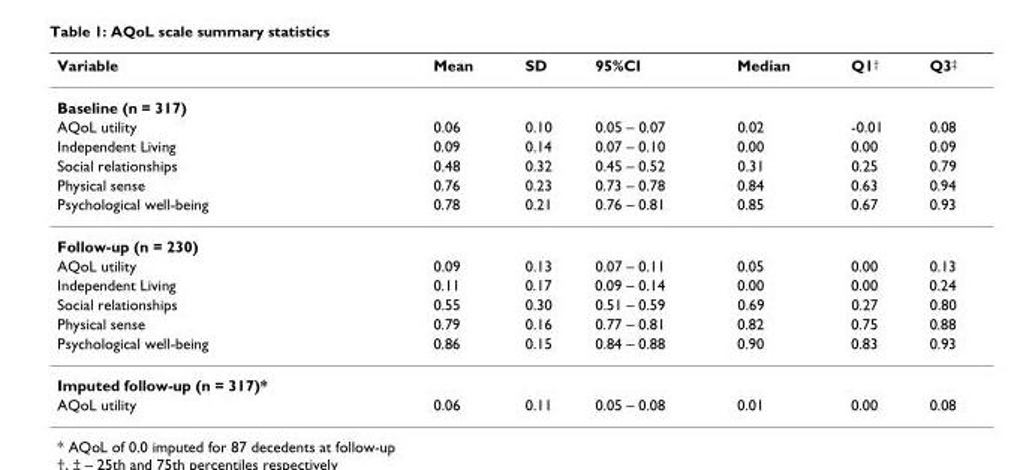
<table><thead><tr><td>Variable</td><td>Mean</td><td>SD</td><td>95%CI</td><td>Median</td><td>Q1<sup>†</sup></td><td>Q3<sup>‡</sup></td></tr></thead><tbody><tr><td colspan="7">Baseline (n = 317)</td></tr><tr><td>AQoL utility</td><td>0.06</td><td>0.10</td><td>0.05 – 0.07</td><td>0.02</td><td>-0.01</td><td>0.08</td></tr><tr><td>Independent Living</td><td>0.09</td><td>0.14</td><td>0.07 – 0.10</td><td>0.00</td><td>0.00</td><td>0.09</td></tr><tr><td>Social relationships</td><td>0.48</td><td>0.32</td><td>0.45 – 0.52</td><td>0.31</td><td>0.25</td><td>0.79</td></tr><tr><td>Physical sense</td><td>0.76</td><td>0.23</td><td>0.73 – 0.78</td><td>0.84</td><td>0.63</td><td>0.94</td></tr><tr><td>Psychological well-being</td><td>0.78</td><td>0.21</td><td>0.76 – 0.81</td><td>0.85</td><td>0.67</td><td>0.93</td></tr><tr><td colspan="7">Follow-up (n = 230)</td></tr><tr><td>AQoL utility</td><td>0.09</td><td>0.13</td><td>0.07 – 0.11</td><td>0.05</td><td>0.00</td><td>0.13</td></tr><tr><td>Independent Living</td><td>0.11</td><td>0.17</td><td>0.09 – 0.14</td><td>0.00</td><td>0.00</td><td>0.24</td></tr><tr><td>Social relationships</td><td>0.55</td><td>0.30</td><td>0.51 – 0.59</td><td>0.69</td><td>0.27</td><td>0.80</td></tr><tr><td>Physical sense</td><td>0.79</td><td>0.16</td><td>0.77 – 0.81</td><td>0.82</td><td>0.75</td><td>0.88</td></tr><tr><td>Psychological well-being</td><td>0.86</td><td>0.15</td><td>0.84 – 0.88</td><td>0.90</td><td>0.83</td><td>0.93</td></tr><tr><td colspan="7">Imputed follow-up (n = 317)*</td></tr><tr><td>AQoL utility</td><td>0.06</td><td>0.11</td><td>0.05 – 0.08</td><td>0.01</td><td>0.00</td><td>0.08</td></tr></tbody></table>